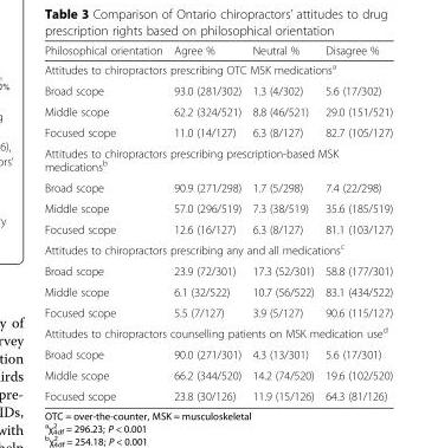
<table><thead><tr><td>Philosophical orientation</td><td>Agree %</td><td>Neutral %</td><td>Disagree %</td></tr></thead><tbody><tr><td colspan="4">Attitudes to chiropractors prescribing OTC MSK medications<sup>a</sup></td></tr><tr><td>Broad scope</td><td>93.0 (281/302)</td><td>1.3 (4/302)</td><td>5.6 (17/302)</td></tr><tr><td>Middle scope</td><td>62.2 (324/521)</td><td>8.8 (46/521)</td><td>29.0 (151/521)</td></tr><tr><td>Focused scope</td><td>11.0 (14/127)</td><td>6.3 (8/127)</td><td>82.7 (105/127)</td></tr><tr><td colspan="4">Attitudes to chiropractors prescribing prescription-based MSK medications<sup>b</sup></td></tr><tr><td>Broad scope</td><td>90.9 (271/298)</td><td>1.7 (5/298)</td><td>7.4 (22/298)</td></tr><tr><td>Middle scope</td><td>57.0 (296/519)</td><td>7.3 (38/519)</td><td>35.6 (185/519)</td></tr><tr><td>Focused scope</td><td>12.6 (16/127)</td><td>6.3 (8/127)</td><td>81.1 (103/127)</td></tr><tr><td colspan="4">Attitudes to chiropractors prescribing any and all medications<sup>c</sup></td></tr><tr><td>Broad scope</td><td>23.9 (72/301)</td><td>17.3 (52/301)</td><td>58.8 (177/301)</td></tr><tr><td>Middle scope</td><td>6.1 (32/522)</td><td>10.7 (56/522)</td><td>83.1 (434/522)</td></tr><tr><td>Focused scope</td><td>5.5 (7/127)</td><td>3.9 (5/127)</td><td>90.6 (115/127)</td></tr><tr><td colspan="4">Attitudes to chiropractors counselling patients on MSK medication use<sup>d</sup></td></tr><tr><td>Broad scope</td><td>90.0 (271/301)</td><td>4.3 (13/301)</td><td>5.6 (17/301)</td></tr><tr><td>Middle scope</td><td>66.2 (344/520)</td><td>14.2 (74/520)</td><td>19.6 (102/520)</td></tr><tr><td>Focused scope</td><td>23.8 (30/126)</td><td>11.9 (15/126)</td><td>64.3 (81/126)</td></tr></tbody></table>